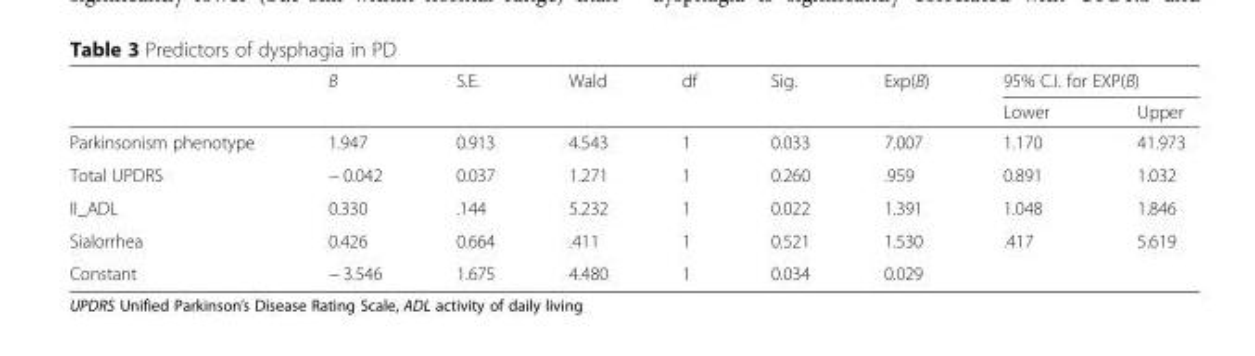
<table><thead><tr><td rowspan="2"></td><td rowspan="2">B</td><td rowspan="2">S.E.</td><td rowspan="2">Wald</td><td rowspan="2">df</td><td rowspan="2">Sig.</td><td rowspan="2">Exp(B)</td><td colspan="2">95% C.I. for EXP(B)</td></tr><tr><td>Lower</td><td>Upper</td></tr></thead><tbody><tr><td>Parkinsonism phenotype</td><td>1.947</td><td>0.913</td><td>4.543</td><td>1</td><td>0.033</td><td>7.007</td><td>1.170</td><td>41.973</td></tr><tr><td>Total UPDRS</td><td>− 0.042</td><td>0.037</td><td>1.271</td><td>1</td><td>0.260</td><td>.959</td><td>0.891</td><td>1.032</td></tr><tr><td>II_ADL</td><td>0.330</td><td>.144</td><td>5.232</td><td>1</td><td>0.022</td><td>1.391</td><td>1.048</td><td>1.846</td></tr><tr><td>Sialorrhea</td><td>0.426</td><td>0.664</td><td>.411</td><td>1</td><td>0.521</td><td>1.530</td><td>.417</td><td>5.619</td></tr><tr><td>Constant</td><td>− 3.546</td><td>1.675</td><td>4.480</td><td>1</td><td>0.034</td><td>0.029</td><td></td><td></td></tr></tbody></table>